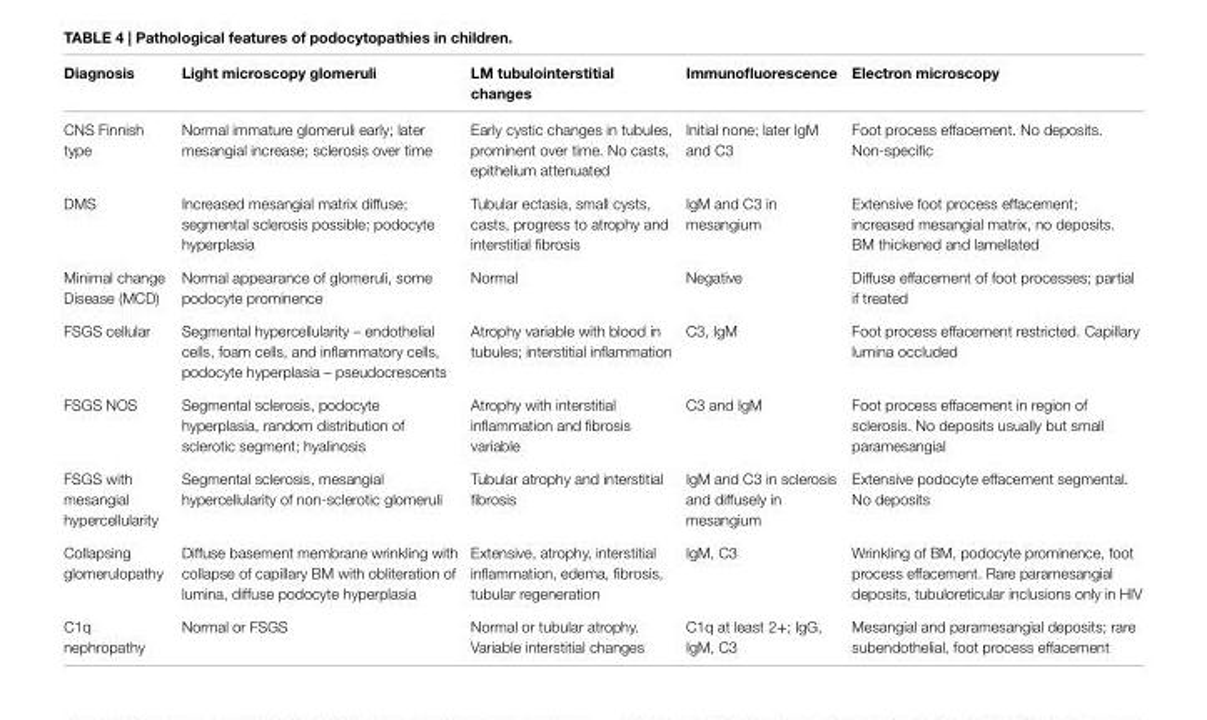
<table><thead><tr><td>Diagnosis</td><td>Light microscopy glomeruli</td><td>LM tubulointerstitial changes</td><td>immunofluorescence</td><td>electron microscopy</td></tr></thead><tbody><tr><td>CNS Finnish type</td><td>Normal immature glomeruli early; later mesangial increase; sclerosis over time</td><td>Early cystic changes in tubules, prominent over time. No casts, epithelium attenuated</td><td>Initial none; later IgM and C3</td><td>Foot process effacement. No deposits. Non-specific</td></tr><tr><td>DMS</td><td>Increased mesangial matrix diffuse; segmental sclerosis possible; podocyte hyperplasia</td><td>Tubular ectasia, small cysts, casts, progress to atrophy and interstitial fibrosis</td><td>IgM and C3 in mesangium</td><td>Extensive foot process effacement; increased mesangial matrix, no deposits. BM thickened and lamellated</td></tr><tr><td>Minimal change Disease (MCD)</td><td>Normal appearance of glomeruli, some podocyte prominence</td><td>Normal</td><td>Negative</td><td>Diffuse effacement of foot processes; partial if treated</td></tr><tr><td>FSGS cellular</td><td>Segmental hypercellularity – endothelial cells, foam cells, and inflammatory cells, podocyte hyperplasia – pseudocrescents</td><td>Atrophy variable with blood in tubules; interstitial inflammation</td><td>C3, IgM</td><td>Foot process effacement restricted. Capillary lumina occluded</td></tr><tr><td>FSGS NOS</td><td>Segmental sclerosis, podocyte hyperplasia, random distribution of sclerotic segment; hyalinosis</td><td>Atrophy with interstitial inflammation and fibrosis variable</td><td>C3 and IgM</td><td>Foot process effacement in region of sclerosis. No deposits usually but small paramesangial</td></tr><tr><td>FSGS with mesangial hypercellularity</td><td>Segmental sclerosis, mesangial hypercellularity of non-sclerotic glomeruli</td><td>Tubular atrophy and interstitial fibrosis</td><td>IgM and C3 in sclerosis and diffusely in mesangium</td><td>Extensive podocyte effacement segmental. No deposits</td></tr><tr><td>Collapsing glomerulopathy</td><td>Diffuse basement membrane wrinkling with collapse of capillary BM with obliteration of lumina, diffuse podocyte hyperplasia</td><td>Extensive, atrophy, interstitial inflammation, edema, fibrosis, tubular regeneration</td><td>IgM, C3</td><td>Wrinkling of BM, podocyte prominence, foot process effacement. Rare paramesangial deposits, tubuloreticular inclusions only in HIV</td></tr><tr><td>C1q nephropathy</td><td>Normal or FSGS</td><td>Normal or tubular atrophy. Variable interstitial changes</td><td>C1q at least 2+; IgG, IgM, C3</td><td>Mesangial and paramesangial deposits; rare subendothelial, foot process effacement</td></tr></tbody></table>